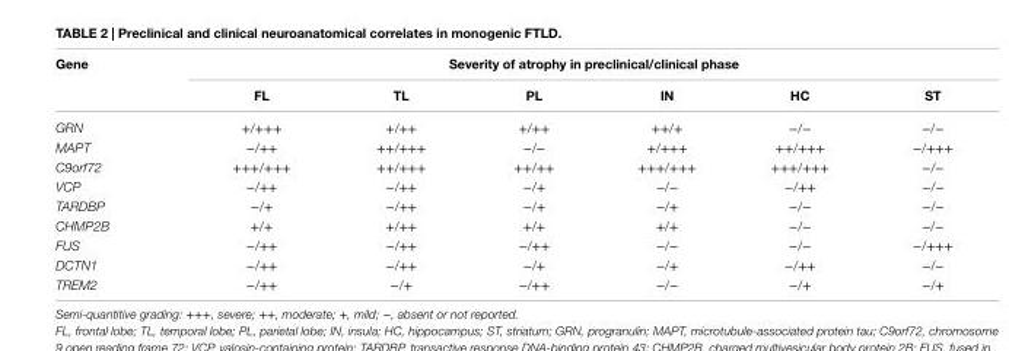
<table><thead><tr><td rowspan="2">Gene</td><td colspan="6">Severity of atrophy in preclinical/clinical phase</td></tr><tr><td>FL</td><td>TL</td><td>PL</td><td>iN</td><td>HC</td><td>ST</td></tr></thead><tbody><tr><td>GRN</td><td>+/+++</td><td>+/++</td><td>+/++</td><td>++/+</td><td>−/−</td><td>−/−</td></tr><tr><td>MAPT</td><td>−/++</td><td>++/+++</td><td>−/−</td><td>+/+++</td><td>++/+++</td><td>−/+++</td></tr><tr><td>C9orf72</td><td>+++/+++</td><td>++/+++</td><td>++/++</td><td>+++/+++</td><td>+++/+++</td><td>−/−</td></tr><tr><td>VCP</td><td>−/++</td><td>−/++</td><td>−/+</td><td>−/−</td><td>−/++</td><td>−/−</td></tr><tr><td>TARDBP</td><td>−/+</td><td>−/++</td><td>−/+</td><td>−/+</td><td>−/−</td><td>−/−</td></tr><tr><td>CHMP2B</td><td>+/+</td><td>+/++</td><td>+/+</td><td>+/+</td><td>−/−</td><td>−/−</td></tr><tr><td>FUS</td><td>−/++</td><td>−/++</td><td>−/++</td><td>−/−</td><td>−/−</td><td>−/+++</td></tr><tr><td>DCTN1</td><td>−/++</td><td>−/++</td><td>−/+</td><td>−/+</td><td>−/++</td><td>−/−</td></tr><tr><td>TREM2</td><td>−/++</td><td>−/+</td><td>−/++</td><td>−/−</td><td>−/+</td><td>−/+</td></tr></tbody></table>